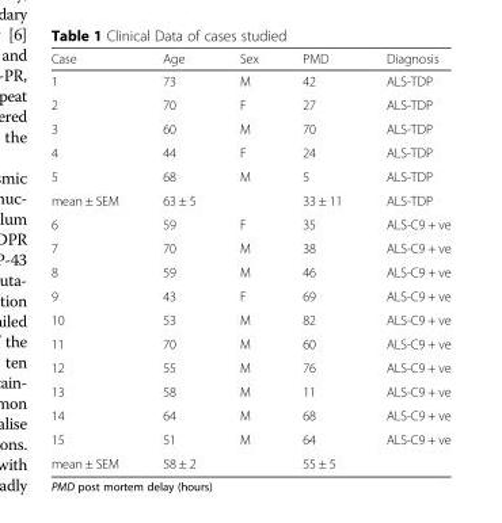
<table><thead><tr><td>Case</td><td>Age</td><td>Sex</td><td>PMD</td><td>Diagnosis</td></tr></thead><tbody><tr><td>1</td><td>73</td><td>M</td><td>42</td><td>ALS-TDP</td></tr><tr><td>2</td><td>70</td><td>F</td><td>27</td><td>ALS-TDP</td></tr><tr><td>3</td><td>60</td><td>M</td><td>70</td><td>ALS-TDP</td></tr><tr><td>4</td><td>44</td><td>F</td><td>24</td><td>ALS-TDP</td></tr><tr><td>5</td><td>68</td><td>M</td><td>5</td><td>ALS-TDP</td></tr><tr><td>mean ± SEM</td><td>63 ± 5</td><td></td><td>33 ± 11</td><td>ALS-TDP</td></tr><tr><td>6</td><td>59</td><td>F</td><td>35</td><td>ALS-C9 + ve</td></tr><tr><td>7</td><td>70</td><td>M</td><td>38</td><td>ALS-C9 + ve</td></tr><tr><td>8</td><td>59</td><td>M</td><td>46</td><td>ALS-C9 + ve</td></tr><tr><td>9</td><td>43</td><td>F</td><td>69</td><td>ALS-C9 + ve</td></tr><tr><td>10</td><td>53</td><td>M</td><td>82</td><td>ALS-C9 + ve</td></tr><tr><td>11</td><td>70</td><td>M</td><td>60</td><td>ALS-C9 + ve</td></tr><tr><td>12</td><td>55</td><td>M</td><td>76</td><td>ALS-C9 + ve</td></tr><tr><td>13</td><td>58</td><td>M</td><td>11</td><td>ALS-C9 + ve</td></tr><tr><td>14</td><td>64</td><td>M</td><td>68</td><td>ALS-C9 + ve</td></tr><tr><td>15</td><td>51</td><td>M</td><td>64</td><td>ALS-C9 + ve</td></tr><tr><td>mean ± SEM</td><td>58 ± 2</td><td></td><td>55 ± 5</td><td></td></tr></tbody></table>